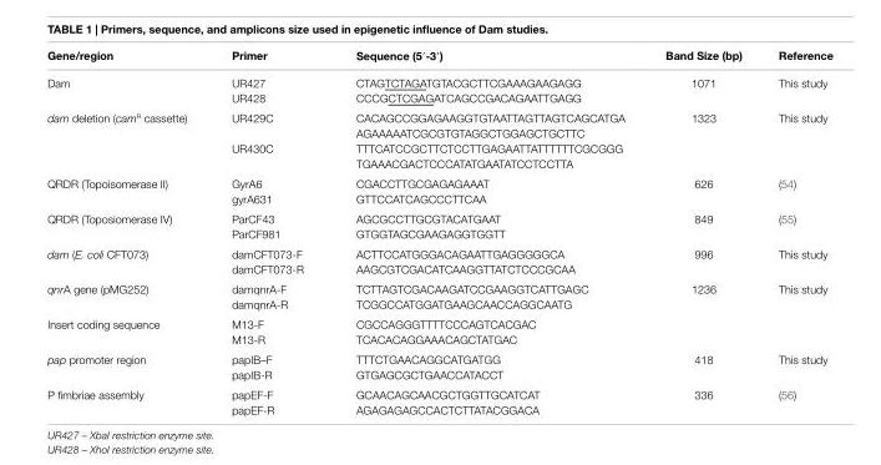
<table><thead><tr><td>gene/region</td><td>Primer</td><td>sequence (5′-3′)</td><td>Band size (bp)</td><td>reference</td></tr></thead><tbody><tr><td rowspan="2">Dam</td><td>UR427</td><td>CTAGTCTAGATGTACGCTTCGAAAGAAGAGG</td><td rowspan="2">1071</td><td rowspan="2">This study</td></tr><tr><td>UR428</td><td>CCCGCTCGAGATCAGCCGACAGAATTGAGG</td></tr><tr><td rowspan="2">dam deletion (cam<sup>R</sup> cassette)</td><td>UR429C</td><td>CACAGCCGGAGAAGGTGTAATTAGTTAGTCAGCATGA AGAAAAATCGCGTGTAGGCTGGAGCTGCTTC</td><td rowspan="2">1323</td><td rowspan="2">This study</td></tr><tr><td>UR430C</td><td>TTTCATCCGCTTCTCCTTGAGAATTATTTTTTCGCGGG TGAAACGACTCCCATATGAATATCCTCCTTA</td></tr><tr><td rowspan="2">QRDR (Topoisomerase II)</td><td>GyrA6</td><td>CGACCTTGCGAGAGAAAT</td><td rowspan="2">626</td><td rowspan="2">(54)</td></tr><tr><td>gyrA631</td><td>GTTCCATCAGCCCTTCAA</td></tr><tr><td rowspan="2">QRDR (Toposiomerase IV)</td><td>ParCF43</td><td>AGCGCCTTGCGTACATGAAT</td><td rowspan="2">849</td><td rowspan="2">(55)</td></tr><tr><td>ParCF981</td><td>GTGGTAGCGAAGAGGTGGTT</td></tr><tr><td rowspan="2">dam (E. coli CFT073)</td><td>damCFT073-F</td><td>ACTTCCATGGGACAGAATTGAGGGGGCA</td><td rowspan="2">996</td><td rowspan="2">This study</td></tr><tr><td>damCFT073-R</td><td>AAGCGTCGACATCAAGGTTATCTCCCGCAA</td></tr><tr><td rowspan="2">qnrA gene (pMG252)</td><td>damqnrA-F</td><td>TCTTAGTCGACAAGATCCGAAGGTCATTGAGC</td><td rowspan="2">1236</td><td rowspan="2">This study</td></tr><tr><td>damqnrA-R</td><td>TCGGCCATGGATGAAGCAACCAGGCAATG</td></tr><tr><td rowspan="2">Insert coding sequence</td><td>M13-F</td><td>CGCCAGGGTTTTCCCAGTCACGAC</td><td rowspan="2"></td><td rowspan="2"></td></tr><tr><td>M13-R</td><td>TCACACAGGAAACAGCTATGAC</td></tr><tr><td rowspan="2">pap promoter region</td><td>papIB–F</td><td>TTTCTGAACAGGCATGATGG</td><td rowspan="2">418</td><td rowspan="2">This study</td></tr><tr><td>papIB-R</td><td>GTGAGCGCTGAACCATACCT</td></tr><tr><td rowspan="2">P fimbriae assembly</td><td>papEF-F</td><td>GCAACAGCAACGCTGGTTGCATCAT</td><td rowspan="2">336</td><td rowspan="2">(56)</td></tr><tr><td>papEF-R</td><td>AGAGAGAGCCACTCTTATACGGACA</td></tr></tbody></table>